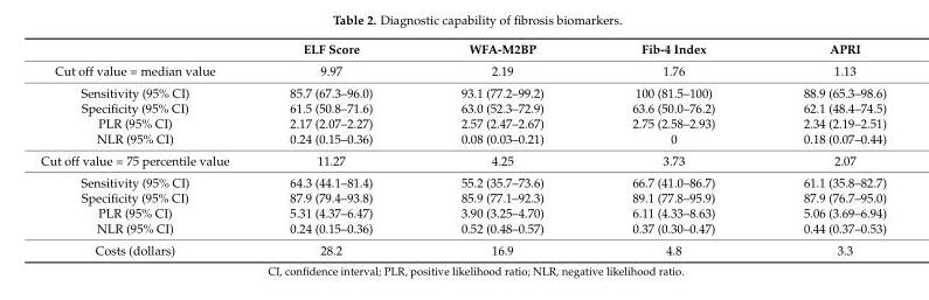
<table><thead><tr><td></td><td>ELF Score</td><td>WFA-M2BP</td><td>Fib-4 Index</td><td>APRI</td></tr></thead><tbody><tr><td>Cut off value = median value</td><td>9.97</td><td>2.19</td><td>1.76</td><td>1.13</td></tr><tr><td>Sensitivity (95% CI)</td><td>85.7 (67.3–96.0)</td><td>93.1 (77.2–99.2)</td><td>100 (81.5–100)</td><td>88.9 (65.3–98.6)</td></tr><tr><td>Specificity (95% CI)</td><td>61.5 (50.8–71.6)</td><td>63.0 (52.3–72.9)</td><td>63.6 (50.0–76.2)</td><td>62.1 (48.4–74.5)</td></tr><tr><td>PLR (95% CI)</td><td>2.17 (2.07–2.27)</td><td>2.57 (2.47–2.67)</td><td>2.75 (2.58–2.93)</td><td>2.34 (2.19–2.51)</td></tr><tr><td>NLR (95% CI)</td><td>0.24 (0.15–0.36)</td><td>0.08 (0.03–0.21)</td><td>0</td><td>0.18 (0.07–0.44)</td></tr><tr><td>Cut off value = 75 percentile value</td><td>11.27</td><td>4.25</td><td>3.73</td><td>2.07</td></tr><tr><td>Sensitivity (95% CI)</td><td>64.3 (44.1–81.4)</td><td>55.2 (35.7–73.6)</td><td>66.7 (41.0–86.7)</td><td>61.1 (35.8–82.7)</td></tr><tr><td>Specificity (95% CI)</td><td>87.9 (79.4–93.8)</td><td>85.9 (77.1–92.3)</td><td>89.1 (77.8–95.9)</td><td>87.9 (76.7–95.0)</td></tr><tr><td>PLR (95% CI)</td><td>5.31 (4.37–6.47)</td><td>3.90 (3.25–4.70)</td><td>6.11 (4.33–8.63)</td><td>5.06 (3.69–6.94)</td></tr><tr><td>NLR (95% CI)</td><td>0.24 (0.15–0.36)</td><td>0.52 (0.48–0.57)</td><td>0.37 (0.30–0.47)</td><td>0.44 (0.37–0.53)</td></tr><tr><td>Costs (dollars)</td><td>28.2</td><td>16.9</td><td>4.8</td><td>3.3</td></tr></tbody></table>